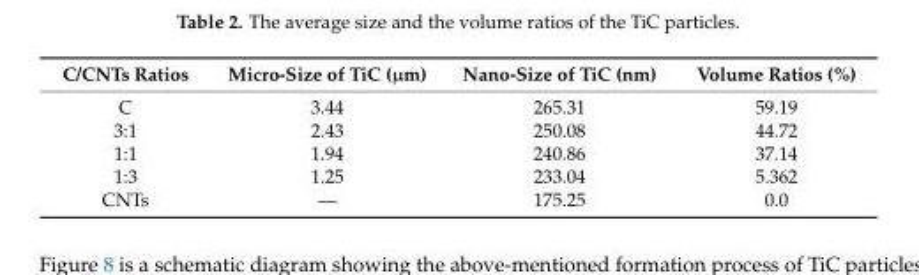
<table><thead><tr><td>C/CNTs Ratios</td><td>Micro-Size of TiC (µm)</td><td>Nano-Size of TiC (nm)</td><td>Volume Ratios (%)</td></tr></thead><tbody><tr><td>C</td><td>3.44</td><td>265.31</td><td>59.19</td></tr><tr><td>3:1</td><td>2.43</td><td>250.08</td><td>44.72</td></tr><tr><td>1:1</td><td>1.94</td><td>240.86</td><td>37.14</td></tr><tr><td>1:3</td><td>1.25</td><td>233.04</td><td>5.362</td></tr><tr><td>CNTs</td><td>—</td><td>175.25</td><td>0.0</td></tr></tbody></table>